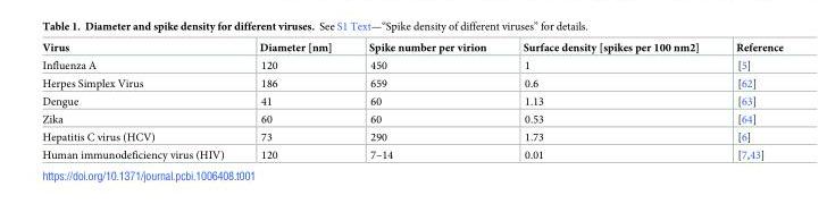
<table><thead><tr><td>Virus</td><td>Diameter [nm]</td><td>Spike number per virion</td><td>Surface density [spikes per 100 nm2]</td><td>Reference</td></tr></thead><tbody><tr><td>Influenza A</td><td>120</td><td>450</td><td>1</td><td>[5]</td></tr><tr><td>Herpes Simplex Virus</td><td>186</td><td>659</td><td>0.6</td><td>[62]</td></tr><tr><td>Dengue</td><td>41</td><td>60</td><td>1.13</td><td>[63]</td></tr><tr><td>Zika</td><td>60</td><td>60</td><td>0.53</td><td>[64]</td></tr><tr><td>Hepatitis C virus (HCV)</td><td>73</td><td>290</td><td>1.73</td><td>[6]</td></tr><tr><td>Human immunodeficiency virus (HIV)</td><td>120</td><td>7–14</td><td>0.01</td><td>[7,43]</td></tr></tbody></table>